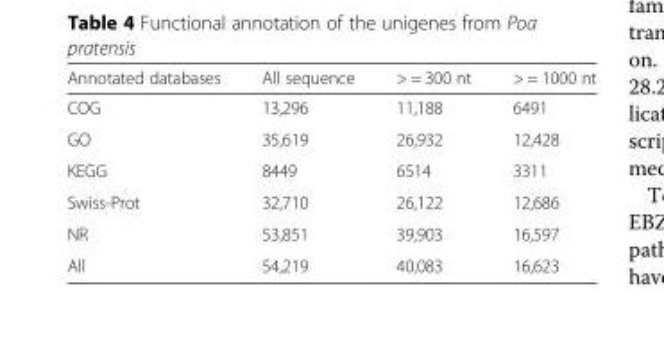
<table><thead><tr><td>Annotated databases</td><td>All sequence</td><td>&gt; = 300 nt</td><td>&gt; = 1000 nt</td></tr></thead><tbody><tr><td>COG</td><td>13,296</td><td>11,188</td><td>6491</td></tr><tr><td>GO</td><td>35,619</td><td>26,932</td><td>12,428</td></tr><tr><td>KEGG</td><td>8449</td><td>6514</td><td>3311</td></tr><tr><td>Swiss-Prot</td><td>32,710</td><td>26,122</td><td>12,686</td></tr><tr><td>NR</td><td>53,851</td><td>39,903</td><td>16,597</td></tr><tr><td>All</td><td>54,219</td><td>40,083</td><td>16,623</td></tr></tbody></table>